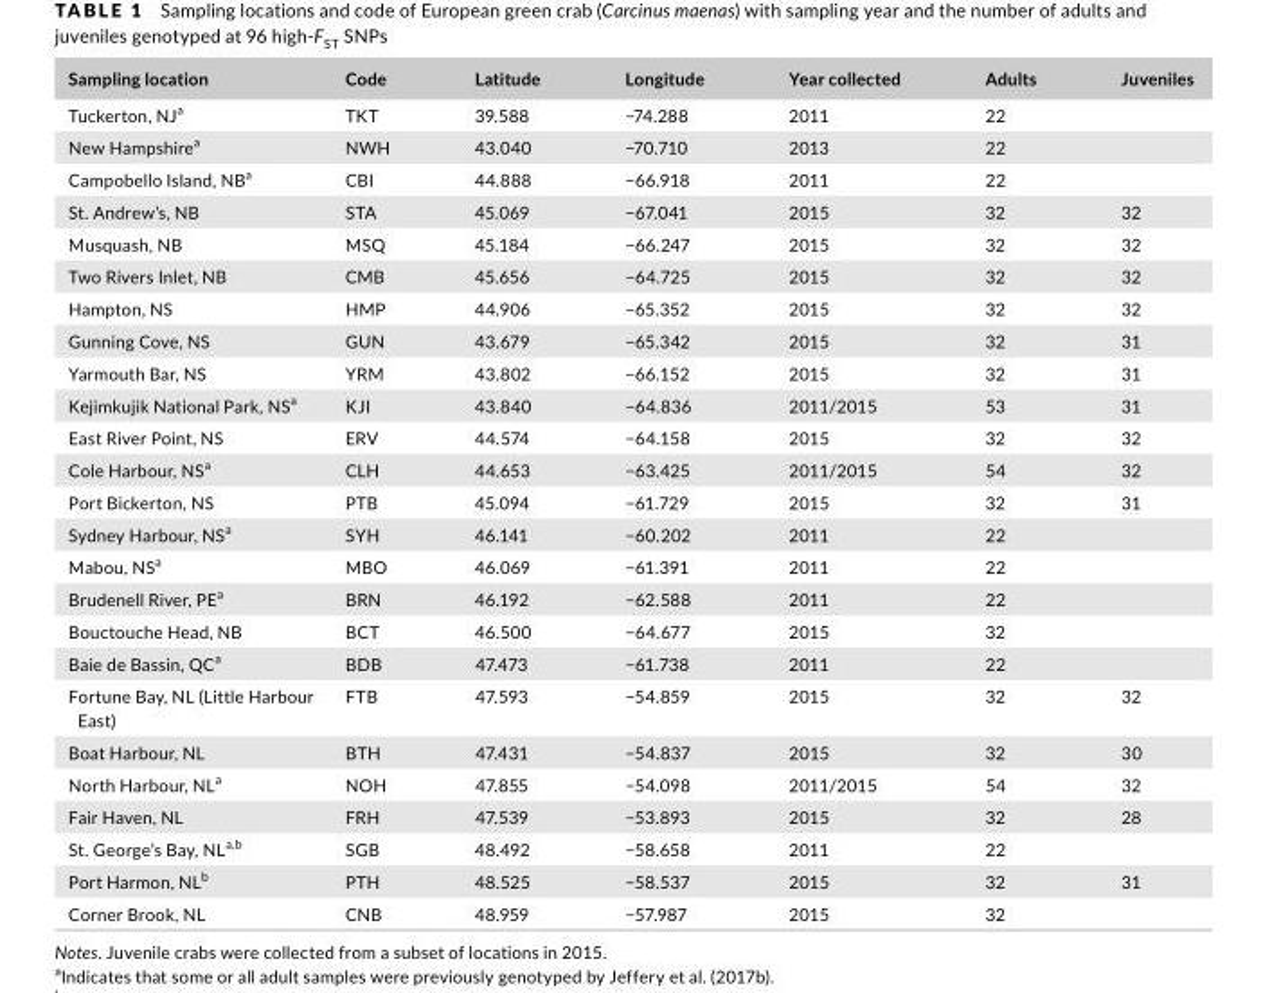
<table><thead><tr><td>Sampling location</td><td>Code</td><td>Latitude</td><td>Longitude</td><td>Year collected</td><td>Adults</td><td>Juveniles</td></tr></thead><tbody><tr><td>Tuckerton, NJ<sup>a</sup></td><td>TKT</td><td>39.588</td><td>−74.288</td><td>2011</td><td>22</td><td></td></tr><tr><td>New Hampshire<sup>a</sup></td><td>NWH</td><td>43.040</td><td>−70.710</td><td>2013</td><td>22</td><td></td></tr><tr><td>Campobello Island, NB<sup>a</sup></td><td>CBI</td><td>44.888</td><td>−66.918</td><td>2011</td><td>22</td><td></td></tr><tr><td>St. Andrew’s, NB</td><td>STA</td><td>45.069</td><td>−67.041</td><td>2015</td><td>32</td><td>32</td></tr><tr><td>Musquash, NB</td><td>MSQ</td><td>45.184</td><td>−66.247</td><td>2015</td><td>32</td><td>32</td></tr><tr><td>Two Rivers Inlet, NB</td><td>CMB</td><td>45.656</td><td>−64.725</td><td>2015</td><td>32</td><td>32</td></tr><tr><td>Hampton, NS</td><td>HMP</td><td>44.906</td><td>−65.352</td><td>2015</td><td>32</td><td>32</td></tr><tr><td>Gunning Cove, NS</td><td>GUN</td><td>43.679</td><td>−65.342</td><td>2015</td><td>32</td><td>31</td></tr><tr><td>Yarmouth Bar, NS</td><td>YRM</td><td>43.802</td><td>−66.152</td><td>2015</td><td>32</td><td>31</td></tr><tr><td>Kejimkujik National Park, NS<sup>a</sup></td><td>KJI</td><td>43.840</td><td>−64.836</td><td>2011/2015</td><td>53</td><td>31</td></tr><tr><td>East River Point, NS</td><td>ERV</td><td>44.574</td><td>−64.158</td><td>2015</td><td>32</td><td>32</td></tr><tr><td>Cole Harbour, NS<sup>a</sup></td><td>CLH</td><td>44.653</td><td>−63.425</td><td>2011/2015</td><td>54</td><td>32</td></tr><tr><td>Port Bickerton, NS</td><td>PTB</td><td>45.094</td><td>−61.729</td><td>2015</td><td>32</td><td>31</td></tr><tr><td>Sydney Harbour, NS<sup>a</sup></td><td>SYH</td><td>46.141</td><td>−60.202</td><td>2011</td><td>22</td><td></td></tr><tr><td>Mabou, NS<sup>a</sup></td><td>MBO</td><td>46.069</td><td>−61.391</td><td>2011</td><td>22</td><td></td></tr><tr><td>Brudenell River, PE<sup>a</sup></td><td>BRN</td><td>46.192</td><td>−62.588</td><td>2011</td><td>22</td><td></td></tr><tr><td>Bouctouche Head, NB</td><td>BCT</td><td>46.500</td><td>−64.677</td><td>2015</td><td>32</td><td></td></tr><tr><td>Baie de Bassin, QC<sup>a</sup></td><td>BDB</td><td>47.473</td><td>−61.738</td><td>2011</td><td>22</td><td></td></tr><tr><td>Fortune Bay, NL (Little Harbour East)</td><td>FTB</td><td>47.593</td><td>−54.859</td><td>2015</td><td>32</td><td>32</td></tr><tr><td>Boat Harbour, NL</td><td>BTH</td><td>47.431</td><td>−54.837</td><td>2015</td><td>32</td><td>30</td></tr><tr><td>North Harbour, NL<sup>a</sup></td><td>NOH</td><td>47.855</td><td>−54.098</td><td>2011/2015</td><td>54</td><td>32</td></tr><tr><td>Fair Haven, NL</td><td>FRH</td><td>47.539</td><td>−53.893</td><td>2015</td><td>32</td><td>28</td></tr><tr><td>St. George’s Bay, NL<sup>a,</sup>b</td><td>SGB</td><td>48.492</td><td>−58.658</td><td>2011</td><td>22</td><td></td></tr><tr><td>Port Harmon, NL<sup>b</sup></td><td>PTH</td><td>48.525</td><td>−58.537</td><td>2015</td><td>32</td><td>31</td></tr><tr><td>Corner Brook, NL</td><td>CNB</td><td>48.959</td><td>−57.987</td><td>2015</td><td>32</td><td></td></tr></tbody></table>